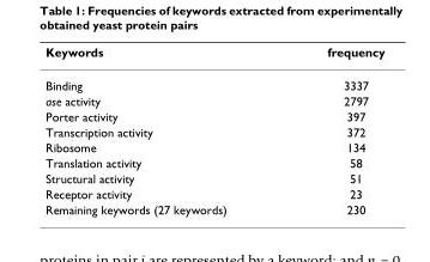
<table><thead><tr><td>Keywords</td><td>frequency</td></tr></thead><tbody><tr><td>Binding</td><td>3337</td></tr><tr><td>ase activity</td><td>2797</td></tr><tr><td>Porter activity</td><td>397</td></tr><tr><td>Transcription activity</td><td>372</td></tr><tr><td>Ribosome</td><td>134</td></tr><tr><td>Translation activity</td><td>58</td></tr><tr><td>Structural activity</td><td>51</td></tr><tr><td>Receptor activity</td><td>23</td></tr><tr><td>Remaining keywords (27 keywords)</td><td>230</td></tr></tbody></table>